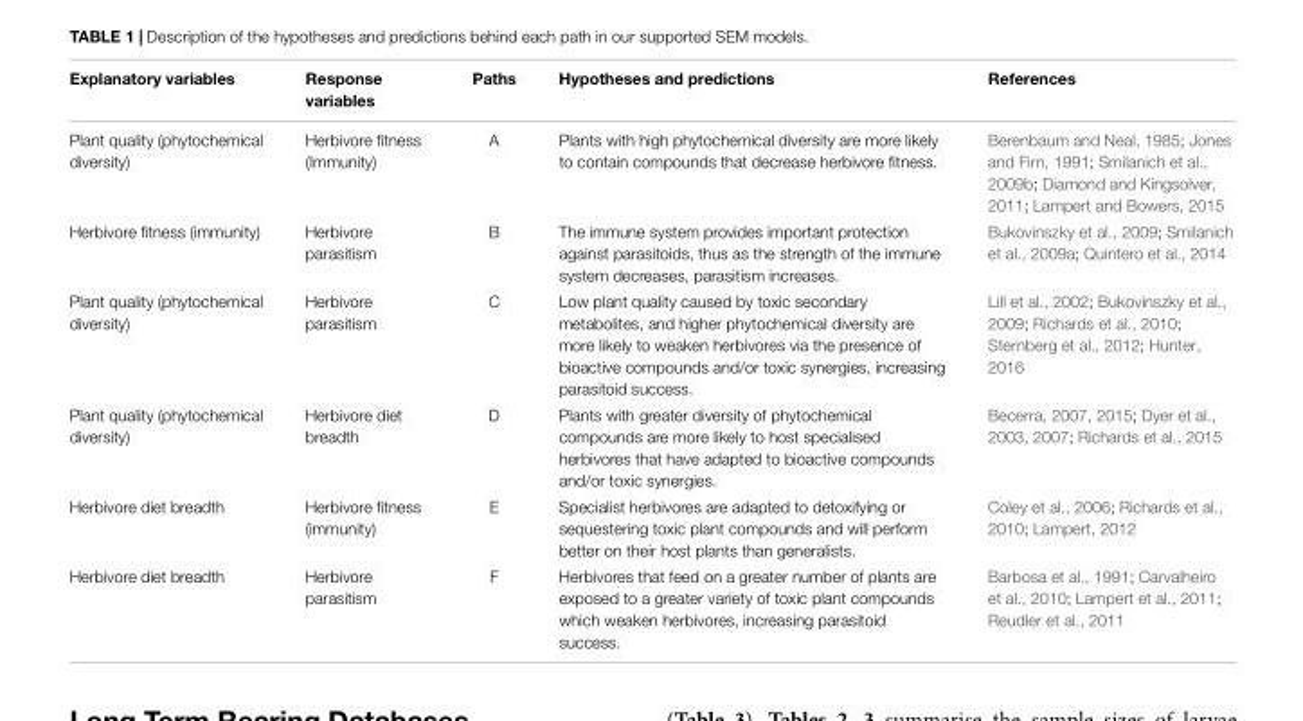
<table><thead><tr><td>Explanatory variables</td><td>Response variables</td><td>Paths</td><td>Hypotheses and predictions</td><td>References</td></tr></thead><tbody><tr><td>Plant quality (phytochemical diversity)</td><td>Herbivore fitness (Immunity)</td><td>A</td><td>Plants with high phytochemical diversity are more likely to contain compounds that decrease herbivore fitness.</td><td>Berenbaum and Neal, 1985; Jones and Firn, 1991; Smilanich et al., 2009b; Diamond and Kingsolver, 2011; Lampert and Bowers, 2015</td></tr><tr><td>Herbivore fitness (immunity)</td><td>Herbivore parasitism</td><td>B</td><td>The immune system provides important protection against parasitoids, thus as the strength of the immune system decreases, parasitism increases.</td><td>Bukovinszky et al., 2009; Smilanich et al., 2009a; Quintero et al., 2014</td></tr><tr><td>Plant quality (phytochemical diversity)</td><td>Herbivore parasitism</td><td>C</td><td>Low plant quality caused by toxic secondary metabolites, and higher phytochemical diversity are more likely to weaken herbivores via the presence of bioactive compounds and/or toxic synergies, increasing parasitoid success.</td><td>Lill et al., 2002; Bukovinszky et al., 2009; Richards et al., 2010; Sternberg et al., 2012; Hunter, 2016</td></tr><tr><td>Plant quality (phytochemical diversity)</td><td>Herbivore diet breadth</td><td>D</td><td>Plants with greater diversity of phytochemical compounds are more likely to host specialised herbivores that have adapted to bioactive compounds and/or toxic synergies.</td><td>Becerra, 2007, 2015; Dyer et al., 2003, 2007; Richards et al., 2015</td></tr><tr><td>Herbivore diet breadth</td><td>Herbivore fitness (immunity)</td><td>E</td><td>Specialist herbivores are adapted to detoxifying or sequestering toxic plant compounds and will perform better on their host plants than generalists.</td><td>Coley et al., 2006; Richards et al., 2010; Lampert, 2012</td></tr><tr><td>Herbivore diet breadth</td><td>Herbivore parasitism</td><td>F</td><td>Herbivores that feed on a greater number of plants are exposed to a greater variety of toxic plant compounds which weaken herbivores, increasing parasitoid success.</td><td>Barbosa et al., 1991; Carvalheiro et al., 2010; Lampert et al., 2011; Reudler et al., 2011</td></tr></tbody></table>